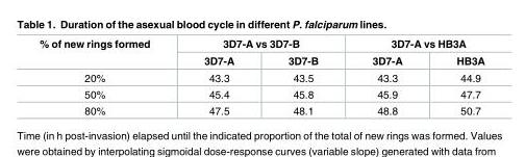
<table><thead><tr><td rowspan="2">% of new rings formed</td><td colspan="2">3D7-A vs 3D7-B</td><td colspan="2">3D7-A vs HB3A</td></tr><tr><td>3D7-A</td><td>3D7-B</td><td>3D7-A</td><td>HB3A</td></tr></thead><tbody><tr><td>20%</td><td>43.3</td><td>43.5</td><td>43.3</td><td>44.9</td></tr><tr><td>50%</td><td>45.4</td><td>45.8</td><td>45.9</td><td>47.7</td></tr><tr><td>80%</td><td>47.5</td><td>48.1</td><td>48.8</td><td>50.7</td></tr></tbody></table>